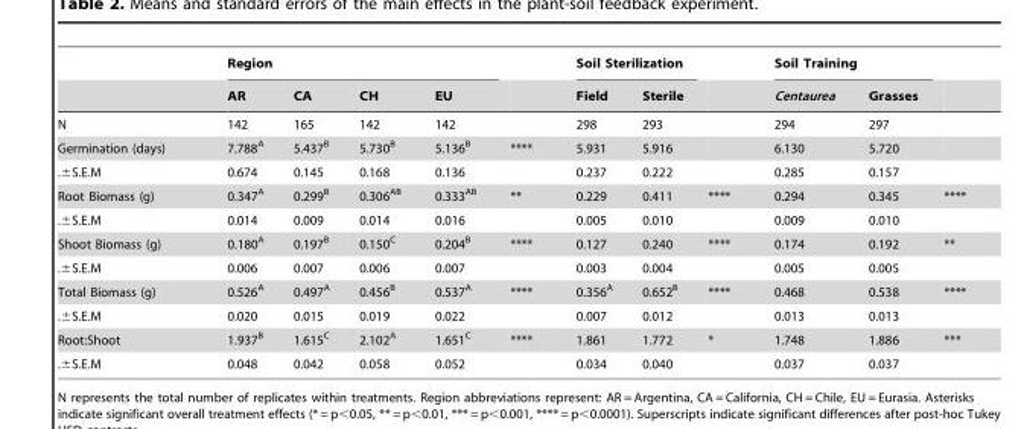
<table><thead><tr><td rowspan="2"></td><td colspan="4">Region</td><td rowspan="2"></td><td colspan="2">Soil Sterilization</td><td rowspan="2"></td><td colspan="2">Soil Training</td><td rowspan="2"></td></tr><tr><td>AR</td><td>CA</td><td>CH</td><td>EU</td><td>Field</td><td>Sterile</td><td>Centaurea</td><td>Grasses</td></tr></thead><tbody><tr><td>N</td><td>142</td><td>165</td><td>142</td><td>142</td><td></td><td>298</td><td>293</td><td></td><td>294</td><td>297</td><td></td></tr><tr><td>Germination (days)</td><td>7.788<sup>A</sup></td><td>5.437<sup>B</sup></td><td>5.730<sup>B</sup></td><td>5.136<sup>B</sup></td><td>****</td><td>5.931</td><td>5.916</td><td></td><td>6.130</td><td>5.720</td><td></td></tr><tr><td>.±S.E.M</td><td>0.674</td><td>0.145</td><td>0.168</td><td>0.136</td><td></td><td>0.237</td><td>0.222</td><td></td><td>0.285</td><td>0.157</td><td></td></tr><tr><td>Root Biomass (g)</td><td>0.347<sup>A</sup></td><td>0.299<sup>B</sup></td><td>0.306<sup>AB</sup></td><td>0.333<sup>AB</sup></td><td>**</td><td>0.229</td><td>0.411</td><td>****</td><td>0.294</td><td>0.345</td><td>****</td></tr><tr><td>.±S.E.M</td><td>0.014</td><td>0.009</td><td>0.014</td><td>0.016</td><td></td><td>0.005</td><td>0.010</td><td></td><td>0.009</td><td>0.010</td><td></td></tr><tr><td>Shoot Biomass (g)</td><td>0.180<sup>A</sup></td><td>0.197<sup>B</sup></td><td>0.150<sup>C</sup></td><td>0.204<sup>B</sup></td><td>****</td><td>0.127</td><td>0.240</td><td>****</td><td>0.174</td><td>0.192</td><td>**</td></tr><tr><td>.±S.E.M</td><td>0.006</td><td>0.007</td><td>0.006</td><td>0.007</td><td></td><td>0.003</td><td>0.004</td><td></td><td>0.005</td><td>0.005</td><td></td></tr><tr><td>Total Biomass (g)</td><td>0.526<sup>A</sup></td><td>0.497<sup>A</sup></td><td>0.456<sup>B</sup></td><td>0.537<sup>A</sup></td><td>****</td><td>0.356<sup>A</sup></td><td>0.652<sup>B</sup></td><td>****</td><td>0.468</td><td>0.538</td><td>****</td></tr><tr><td>.±S.E.M</td><td>0.020</td><td>0.015</td><td>0.019</td><td>0.022</td><td></td><td>0.007</td><td>0.012</td><td></td><td>0.013</td><td>0.013</td><td></td></tr><tr><td>Root:Shoot</td><td>1.937<sup>B</sup></td><td>1.615<sup>C</sup></td><td>2.102<sup>A</sup></td><td>1.651<sup>C</sup></td><td>****</td><td>1.861</td><td>1.772</td><td>*</td><td>1.748</td><td>1.886</td><td>***</td></tr><tr><td>.±S.E.M</td><td>0.048</td><td>0.042</td><td>0.058</td><td>0.052</td><td></td><td>0.034</td><td>0.040</td><td></td><td>0.037</td><td>0.037</td><td></td></tr></tbody></table>